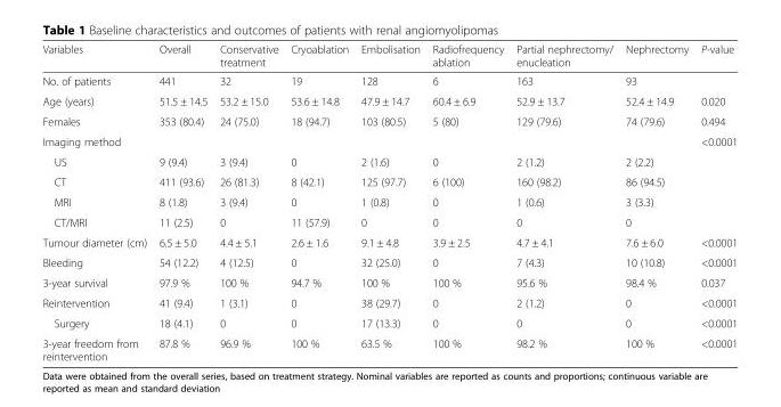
<table><thead><tr><td>Variables</td><td>Overall</td><td>Conservative treatment</td><td>Cryoablation</td><td>Embolisation</td><td>Radiofrequency ablation</td><td>Partial nephrectomy/ enucleation</td><td>Nephrectomy</td><td>P-value</td></tr></thead><tbody><tr><td>No. of patients</td><td>441</td><td>32</td><td>19</td><td>128</td><td>6</td><td>163</td><td>93</td><td></td></tr><tr><td>Age (years)</td><td>51.5 ± 14.5</td><td>53.2 ± 15.0</td><td>53.6 ± 14.8</td><td>47.9 ± 14.7</td><td>60.4 ± 6.9</td><td>52.9 ± 13.7</td><td>52.4 ± 14.9</td><td>0.020</td></tr><tr><td>Females</td><td>353 (80.4)</td><td>24 (75.0)</td><td>18 (94.7)</td><td>103 (80.5)</td><td>5 (80)</td><td>129 (79.6)</td><td>74 (79.6)</td><td>0.494</td></tr><tr><td>Imaging method</td><td></td><td></td><td></td><td></td><td></td><td></td><td></td><td>&lt;0.0001</td></tr><tr><td>US</td><td>9 (9.4)</td><td>3 (9.4)</td><td>0</td><td>2 (1.6)</td><td>0</td><td>2 (1.2)</td><td>2 (2.2)</td><td></td></tr><tr><td>CT</td><td>411 (93.6)</td><td>26 (81.3)</td><td>8 (42.1)</td><td>125 (97.7)</td><td>6 (100)</td><td>160 (98.2)</td><td>86 (94.5)</td><td></td></tr><tr><td>MRI</td><td>8 (1.8)</td><td>3 (9.4)</td><td>0</td><td>1 (0.8)</td><td>0</td><td>1 (0.6)</td><td>3 (3.3)</td><td></td></tr><tr><td>CT/MRI</td><td>11 (2.5)</td><td>0</td><td>11 (57.9)</td><td>0</td><td>0</td><td>0</td><td>0</td><td></td></tr><tr><td>Tumour diameter (cm)</td><td>6.5 ± 5.0</td><td>4.4 ± 5.1</td><td>2.6 ± 1.6</td><td>9.1 ± 4.8</td><td>3.9 ± 2.5</td><td>4.7 ± 4.1</td><td>7.6 ± 6.0</td><td>&lt;0.0001</td></tr><tr><td>Bleeding</td><td>54 (12.2)</td><td>4 (12.5)</td><td>0</td><td>32 (25.0)</td><td>0</td><td>7 (4.3)</td><td>10 (10.8)</td><td>&lt;0.0001</td></tr><tr><td>3-year survival</td><td>97.9 %</td><td>100 %</td><td>94.7 %</td><td>100 %</td><td>100 %</td><td>95.6 %</td><td>98.4 %</td><td>0.037</td></tr><tr><td>Reintervention</td><td>41 (9.4)</td><td>1 (3.1)</td><td>0</td><td>38 (29.7)</td><td>0</td><td>2 (1.2)</td><td>0</td><td>&lt;0.0001</td></tr><tr><td>Surgery</td><td>18 (4.1)</td><td>0</td><td>0</td><td>17 (13.3)</td><td>0</td><td>0</td><td>0</td><td>&lt;0.0001</td></tr><tr><td>3-year freedom from reintervention</td><td>87.8 %</td><td>96.9 %</td><td>100 %</td><td>63.5 %</td><td>100 %</td><td>98.2 %</td><td>100 %</td><td>&lt;0.0001</td></tr></tbody></table>